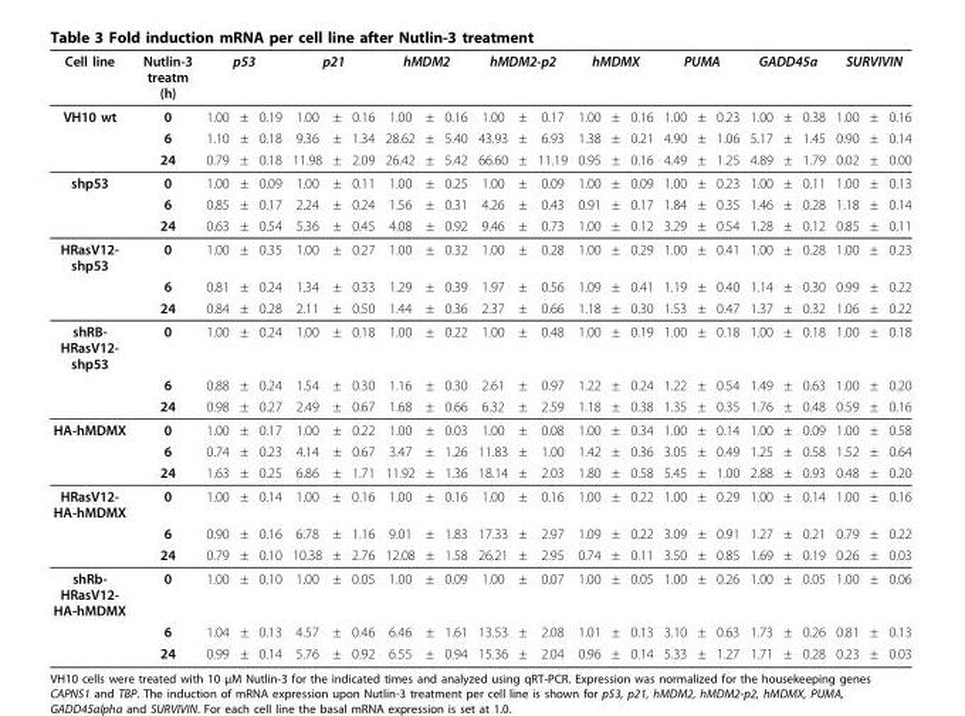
<table><thead><tr><td rowspan="2">Cell line VH10 wt</td><td rowspan="2">Nutlin-3 treatm (h) 0</td><td colspan="3">p53</td><td colspan="3">p21</td><td colspan="3">hMDM2</td><td colspan="3">hMDM2-p2</td><td colspan="3">hMDMX</td><td colspan="3">PUMA</td><td colspan="3">GADD45a</td><td colspan="3">SURVIVIN</td></tr><tr><td>1.00</td><td>±</td><td>0.19</td><td>1.00</td><td>±</td><td>0.16</td><td>1.00</td><td>±</td><td>0.16</td><td>1.00</td><td>±</td><td>0.17</td><td>1.00</td><td>±</td><td>0.16</td><td>1.00</td><td>±</td><td>0.23</td><td>1.00</td><td>±</td><td>0.38</td><td>1.00</td><td>±</td><td>0.16</td></tr></thead><tbody><tr><td></td><td>6</td><td>1.10</td><td>±</td><td>0.18</td><td>9.36</td><td>±</td><td>1.34</td><td>28.62</td><td>±</td><td>5.40</td><td>43.93</td><td>±</td><td>6.93</td><td>1.38</td><td>±</td><td>0.21</td><td>4.90</td><td>±</td><td>1.06</td><td>5.17</td><td>±</td><td>1.45</td><td>0.90</td><td>±</td><td>0.14</td></tr><tr><td></td><td>24</td><td>0.79</td><td>±</td><td>0.18</td><td>11.98</td><td>±</td><td>2.09</td><td>26.42</td><td>±</td><td>5.42</td><td>66.60</td><td>±</td><td>11.19</td><td>0.95</td><td>±</td><td>0.16</td><td>4.49</td><td>±</td><td>1.25</td><td>4.89</td><td>±</td><td>1.79</td><td>0.02</td><td>±</td><td>0.00</td></tr><tr><td rowspan="3">shp53</td><td>0</td><td>1.00</td><td>±</td><td>0.09</td><td>1.00</td><td>±</td><td>0.11</td><td>1.00</td><td>±</td><td>0.25</td><td>1.00</td><td>±</td><td>0.09</td><td>1.00</td><td>±</td><td>0.09</td><td>1.00</td><td>±</td><td>0.23</td><td>1.00</td><td>±</td><td>0.11</td><td>1.00</td><td>±</td><td>0.13</td></tr><tr><td>6</td><td>0.85</td><td>±</td><td>0.17</td><td>2.24</td><td>±</td><td>0.24</td><td>1.56</td><td>±</td><td>0.31</td><td>4.26</td><td>±</td><td>0.43</td><td>0.91</td><td>±</td><td>0.17</td><td>1.84</td><td>±</td><td>0.35</td><td>1.46</td><td>±</td><td>0.28</td><td>1.18</td><td>±</td><td>0.14</td></tr><tr><td>24</td><td>0.63</td><td>±</td><td>0.54</td><td>5.36</td><td>±</td><td>0.45</td><td>4.08</td><td>±</td><td>0.92</td><td>9.46</td><td>±</td><td>0.73</td><td>1.00</td><td>±</td><td>0.12</td><td>3.29</td><td>±</td><td>0.54</td><td>1.28</td><td>±</td><td>0.12</td><td>0.85</td><td>±</td><td>0.11</td></tr><tr><td rowspan="3">HRasV12- shp53</td><td>0</td><td>1.00</td><td>±</td><td>0.35</td><td>1.00</td><td>±</td><td>0.27</td><td>1.00</td><td>±</td><td>0.32</td><td>1.00</td><td>±</td><td>0.28</td><td>1.00</td><td>±</td><td>0.29</td><td>1.00</td><td>±</td><td>0.41</td><td>1.00</td><td>±</td><td>0.28</td><td>1.00</td><td>±</td><td>0.23</td></tr><tr><td>6</td><td>0.81</td><td>±</td><td>0.24</td><td>1.34</td><td>±</td><td>0.33</td><td>1.29</td><td>±</td><td>0.39</td><td>1.97</td><td>±</td><td>0.56</td><td>1.09</td><td>±</td><td>0.41</td><td>1.19</td><td>±</td><td>0.40</td><td>1.14</td><td>±</td><td>0.30</td><td>0.99</td><td>±</td><td>0.22</td></tr><tr><td>24</td><td>0.84</td><td>±</td><td>0.28</td><td>2.11</td><td>±</td><td>0.50</td><td>1.44</td><td>±</td><td>0.36</td><td>2.37</td><td>±</td><td>0.66</td><td>1.18</td><td>±</td><td>0.30</td><td>1.53</td><td>±</td><td>0.47</td><td>1.37</td><td>±</td><td>0.32</td><td>1.06</td><td>±</td><td>0.22</td></tr><tr><td rowspan="3">shRB- HRasV12- shp53</td><td>0</td><td>1.00</td><td>±</td><td>0.24</td><td>1.00</td><td>±</td><td>0.18</td><td>1.00</td><td>±</td><td>0.22</td><td>1.00</td><td>±</td><td>0.48</td><td>1.00</td><td>±</td><td>0.19</td><td>1.00</td><td>±</td><td>0.18</td><td>1.00</td><td>±</td><td>0.18</td><td>1.00</td><td>±</td><td>0.18</td></tr><tr><td>6</td><td>0.88</td><td>±</td><td>0.24</td><td>1.54</td><td>±</td><td>0.30</td><td>1.16</td><td>±</td><td>0.30</td><td>2.61</td><td>±</td><td>0.97</td><td>1.22</td><td>±</td><td>0.24</td><td>1.22</td><td>±</td><td>0.54</td><td>1.49</td><td>±</td><td>0.63</td><td>1.00</td><td>±</td><td>0.20</td></tr><tr><td>24</td><td>0.98</td><td>±</td><td>0.27</td><td>2.49</td><td>±</td><td>0.67</td><td>1.68</td><td>±</td><td>0.66</td><td>6.32</td><td>±</td><td>2.59</td><td>1.18</td><td>±</td><td>0.38</td><td>1.35</td><td>±</td><td>0.35</td><td>1.76</td><td>±</td><td>0.48</td><td>0.59</td><td>±</td><td>0.16</td></tr><tr><td rowspan="3">HA-hMDMX</td><td>0</td><td>1.00</td><td>±</td><td>0.17</td><td>1.00</td><td>±</td><td>0.22</td><td>1.00</td><td>±</td><td>0.03</td><td>1.00</td><td>±</td><td>0.08</td><td>1.00</td><td>±</td><td>0.34</td><td>1.00</td><td>±</td><td>0.14</td><td>1.00</td><td>±</td><td>0.09</td><td>1.00</td><td>±</td><td>0.58</td></tr><tr><td>6</td><td>0.74</td><td>±</td><td>0.23</td><td>4.14</td><td>±</td><td>0.67</td><td>3.47</td><td>±</td><td>1.26</td><td>11.83</td><td>±</td><td>1.00</td><td>1.42</td><td>±</td><td>0.36</td><td>3.05</td><td>±</td><td>0.49</td><td>1.25</td><td>±</td><td>0.58</td><td>1.52</td><td>±</td><td>0.64</td></tr><tr><td>24</td><td>1.63</td><td>±</td><td>0.25</td><td>6.86</td><td>±</td><td>1.71</td><td>11.92</td><td>±</td><td>1.36</td><td>18.14</td><td>±</td><td>2.03</td><td>1.80</td><td>±</td><td>0.58</td><td>5.45</td><td>±</td><td>1.00</td><td>2.88</td><td>±</td><td>0.93</td><td>0.48</td><td>±</td><td>0.20</td></tr><tr><td rowspan="3">HRasV12- HA-hMDMX</td><td>0</td><td>1.00</td><td>±</td><td>0.14</td><td>1.00</td><td>±</td><td>0.16</td><td>1.00</td><td>±</td><td>0.16</td><td>1.00</td><td>±</td><td>0.16</td><td>1.00</td><td>±</td><td>0.22</td><td>1.00</td><td>±</td><td>0.29</td><td>1.00</td><td>±</td><td>0.14</td><td>1.00</td><td>±</td><td>0.16</td></tr><tr><td>6</td><td>0.90</td><td>±</td><td>0.16</td><td>6.78</td><td>±</td><td>1.16</td><td>9.01</td><td>±</td><td>1.83</td><td>17.33</td><td>±</td><td>2.97</td><td>1.09</td><td>±</td><td>0.22</td><td>3.09</td><td>±</td><td>0.91</td><td>1.27</td><td>±</td><td>0.21</td><td>0.79</td><td>±</td><td>0.22</td></tr><tr><td>24</td><td>0.79</td><td>±</td><td>0.10</td><td>10.38</td><td>±</td><td>2.76</td><td>12.08</td><td>±</td><td>1.58</td><td>26.21</td><td>±</td><td>2.95</td><td>0.74</td><td>±</td><td>0.11</td><td>3.50</td><td>±</td><td>0.85</td><td>1.69</td><td>±</td><td>0.19</td><td>0.26</td><td>±</td><td>0.03</td></tr><tr><td rowspan="3">shRb- HRasV12- HA-hMDMX</td><td>0</td><td>1.00</td><td>±</td><td>0.10</td><td>1.00</td><td>±</td><td>0.05</td><td>1.00</td><td>±</td><td>0.09</td><td>1.00</td><td>±</td><td>0.07</td><td>1.00</td><td>±</td><td>0.05</td><td>1.00</td><td>±</td><td>0.26</td><td>1.00</td><td>±</td><td>0.05</td><td>1.00</td><td>±</td><td>0.06</td></tr><tr><td>6</td><td>1.04</td><td>±</td><td>0.13</td><td>4.57</td><td>±</td><td>0.46</td><td>6.46</td><td>±</td><td>1.61</td><td>13.53</td><td>±</td><td>2.08</td><td>1.01</td><td>±</td><td>0.13</td><td>3.10</td><td>±</td><td>0.63</td><td>1.73</td><td>±</td><td>0.26</td><td>0.81</td><td>±</td><td>0.13</td></tr><tr><td>24</td><td>0.99</td><td>±</td><td>0.14</td><td>5.76</td><td>±</td><td>0.92</td><td>6.55</td><td>±</td><td>0.94</td><td>15.36</td><td>±</td><td>2.04</td><td>0.96</td><td>±</td><td>0.14</td><td>5.33</td><td>±</td><td>1.27</td><td>1.71</td><td>±</td><td>0.28</td><td>0.23</td><td>±</td><td>0.03</td></tr></tbody></table>